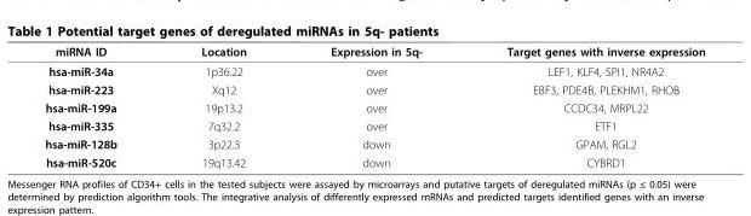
<table><thead><tr><td>miRNA ID</td><td>Location</td><td>Expression in 5q-</td><td>Target genes with inverse expression</td></tr></thead><tbody><tr><td>hsa-miR-34a</td><td>1p36.22</td><td>over</td><td>LEF1, KLF4, SPI1, NR4A2</td></tr><tr><td>hsa-miR-223</td><td>Xq12</td><td>over</td><td>EBF3, PDE4B, PLEKHM1, RHOB</td></tr><tr><td>hsa-miR-199a</td><td>19p13.2</td><td>over</td><td>CCDC34, MRPL22</td></tr><tr><td>hsa-miR-335</td><td>7q32.2</td><td>over</td><td>ETF1</td></tr><tr><td>hsa-miR-128b</td><td>3p22.3</td><td>down</td><td>GPAM, RGL2</td></tr><tr><td>hsa-miR-520c</td><td>19q13.42</td><td>down</td><td>CYBRD1</td></tr></tbody></table>